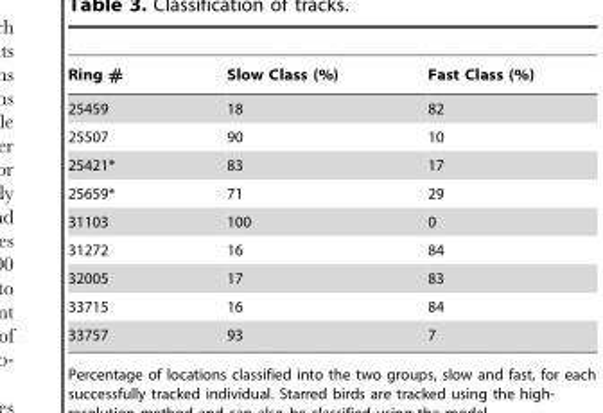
<table><thead><tr><td>Ring #</td><td>Slow Class (%)</td><td>Fast Class (%)</td></tr></thead><tbody><tr><td>25459</td><td>18</td><td>82</td></tr><tr><td>25507</td><td>90</td><td>10</td></tr><tr><td>25421*</td><td>83</td><td>17</td></tr><tr><td>25659*</td><td>71</td><td>29</td></tr><tr><td>31103</td><td>100</td><td>0</td></tr><tr><td>31272</td><td>16</td><td>84</td></tr><tr><td>32005</td><td>17</td><td>83</td></tr><tr><td>33715</td><td>16</td><td>84</td></tr><tr><td>33757</td><td>93</td><td>7</td></tr></tbody></table>